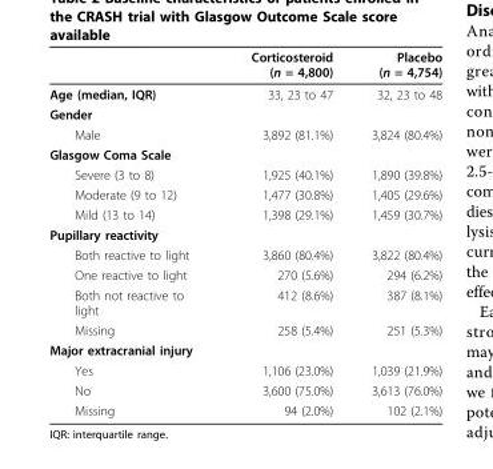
<table><thead><tr><td></td><td>Corticosteroid (n = 4,800)</td><td>Placebo (n = 4,754)</td></tr></thead><tbody><tr><td>Age (median, IQR)</td><td>33, 23 to 47</td><td>32, 23 to 48</td></tr><tr><td colspan="3">Gender</td></tr><tr><td>Male</td><td>3,892 (81.1%)</td><td>3,824 (80.4%)</td></tr><tr><td colspan="3">Glasgow Coma Scale</td></tr><tr><td>Severe (3 to 8)</td><td>1,925 (40.1%)</td><td>1,890 (39.8%)</td></tr><tr><td>Moderate (9 to 12)</td><td>1,477 (30.8%)</td><td>1,405 (29.6%)</td></tr><tr><td>Mild (13 to 14)</td><td>1,398 (29.1%)</td><td>1,459 (30.7%)</td></tr><tr><td colspan="3">Pupillary reactivity</td></tr><tr><td>Both reactive to light</td><td>3,860 (80.4%)</td><td>3,822 (80.4%)</td></tr><tr><td>One reactive to light</td><td>270 (5.6%)</td><td>294 (6.2%)</td></tr><tr><td>Both not reactive to light</td><td>412 (8.6%)</td><td>387 (8.1%)</td></tr><tr><td>Missing</td><td>258 (5.4%)</td><td>251 (5.3%)</td></tr><tr><td colspan="3">Major extracranial injury</td></tr><tr><td>Yes</td><td>1,106 (23.0%)</td><td>1,039 (21.9%)</td></tr><tr><td>No</td><td>3,600 (75.0%)</td><td>3,613 (76.0%)</td></tr><tr><td>Missing</td><td>94 (2.0%)</td><td>102 (2.1%)</td></tr></tbody></table>